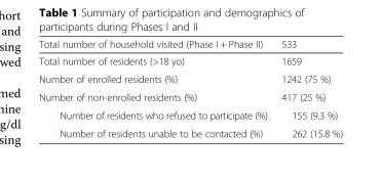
<table><thead><tr><td>Total number of household visited (Phase I + Phase II)</td><td>533</td></tr></thead><tbody><tr><td>Total number of residents (&gt;18 yo)</td><td>1659</td></tr><tr><td>Number of enrolled residents (%)</td><td>1242 (75 %)</td></tr><tr><td>Number of non-enrolled residents (%)</td><td>417 (25 %)</td></tr><tr><td>Number of residents who refused to participate (%)</td><td>155 (9.3 %)</td></tr><tr><td>Number of residents unable to be contacted (%)</td><td>262 (15.8 %)</td></tr></tbody></table>